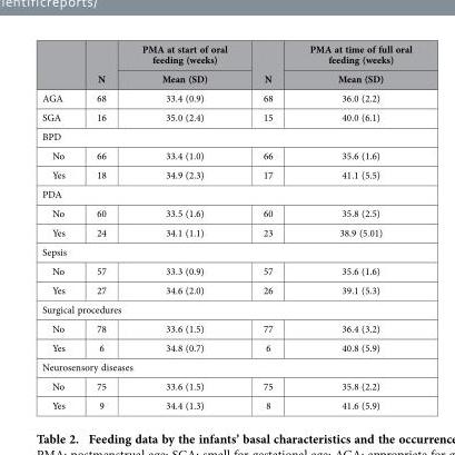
<table><thead><tr><td rowspan="2"></td><td rowspan="2">N</td><td rowspan="2">PMA at start of oral feeding (weeks) Mean (SD)</td><td rowspan="2">N</td><td rowspan="2">PMA at time of full oral feeding (weeks) Mean (SD)</td></tr><tr></tr></thead><tbody><tr><td>AGA</td><td>68</td><td>33.4 (0.9)</td><td>68</td><td>36.0 (2.2)</td></tr><tr><td>SGA</td><td>16</td><td>35.0 (2.4)</td><td>15</td><td>40.0 (6.1)</td></tr><tr><td colspan="5">BPD</td></tr><tr><td>No</td><td>66</td><td>33.4 (1.0)</td><td>66</td><td>35.6 (1.6)</td></tr><tr><td>Yes</td><td>18</td><td>34.9 (2.3)</td><td>17</td><td>41.1 (5.5)</td></tr><tr><td colspan="5">PDA</td></tr><tr><td>No</td><td>60</td><td>33.5 (1.6)</td><td>60</td><td>35.8 (2.5)</td></tr><tr><td>Yes</td><td>24</td><td>34.1 (1.1)</td><td>23</td><td>38.9 (5.01)</td></tr><tr><td colspan="5">Sepsis</td></tr><tr><td>No</td><td>57</td><td>33.3 (0.9)</td><td>57</td><td>35.6 (1.6)</td></tr><tr><td>Yes</td><td>27</td><td>34.6 (2.0)</td><td>26</td><td>39.1 (5.3)</td></tr><tr><td colspan="5">Surgical procedures</td></tr><tr><td>No</td><td>78</td><td>33.6 (1.5)</td><td>77</td><td>36.4 (3.2)</td></tr><tr><td>Yes</td><td>6</td><td>34.8 (0.7)</td><td>6</td><td>40.8 (5.9)</td></tr><tr><td colspan="5">Neurosensory diseases</td></tr><tr><td>No</td><td>75</td><td>33.6 (1.5)</td><td>75</td><td>35.8 (2.2)</td></tr><tr><td>Yes</td><td>9</td><td>34.4 (1.3)</td><td>8</td><td>41.6 (5.9)</td></tr></tbody></table>